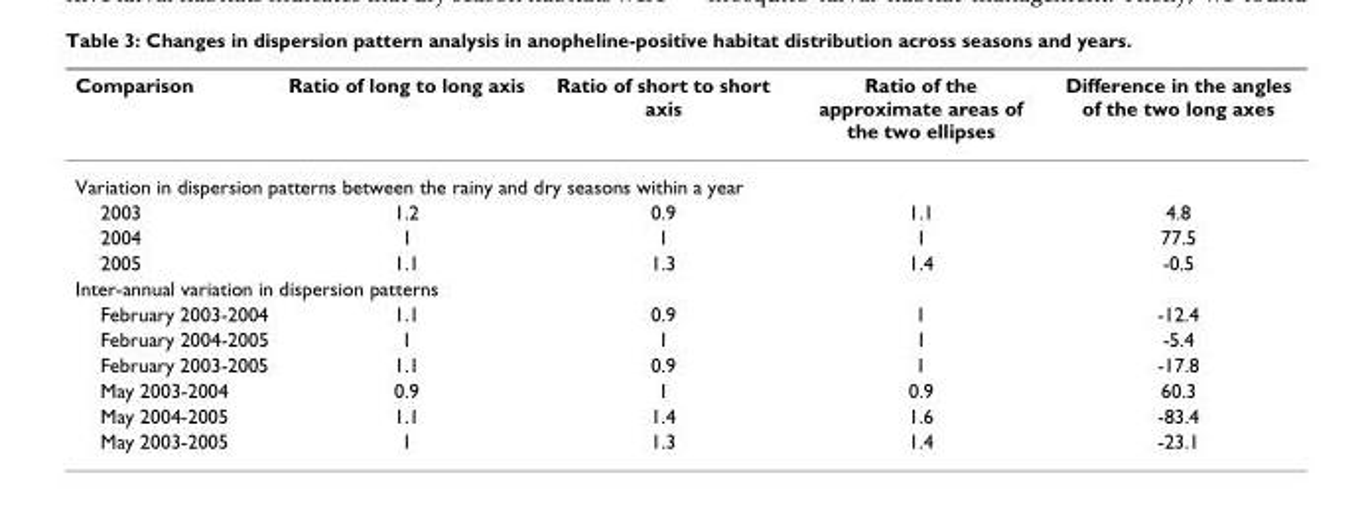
<table><thead><tr><td>Comparison</td><td>Ratio of long to long axis</td><td>Ratio of short to short axis</td><td>Ratio of the approximate areas of the two ellipses</td><td>Difference in the angles of the two long axes</td></tr></thead><tbody><tr><td colspan="5">Variation in dispersion patterns between the rainy and dry seasons within a year</td></tr><tr><td>2003</td><td>1.2</td><td>0.9</td><td>1.1</td><td>4.8</td></tr><tr><td>2004</td><td>1</td><td>1</td><td>1</td><td>77.5</td></tr><tr><td>2005</td><td>1.1</td><td>1.3</td><td>1.4</td><td>-0.5</td></tr><tr><td colspan="5">Inter-annual variation in dispersion patterns</td></tr><tr><td>February 2003-2004</td><td>1.1</td><td>0.9</td><td>1</td><td>-12.4</td></tr><tr><td>February 2004-2005</td><td>1</td><td>1</td><td>1</td><td>-5.4</td></tr><tr><td>February 2003-2005</td><td>1.1</td><td>0.9</td><td>1</td><td>-17.8</td></tr><tr><td>May 2003-2004</td><td>0.9</td><td>1</td><td>0.9</td><td>60.3</td></tr><tr><td>May 2004-2005</td><td>1.1</td><td>1.4</td><td>1.6</td><td>-83.4</td></tr><tr><td>May 2003-2005</td><td>1</td><td>1.3</td><td>1.4</td><td>-23.1</td></tr></tbody></table>